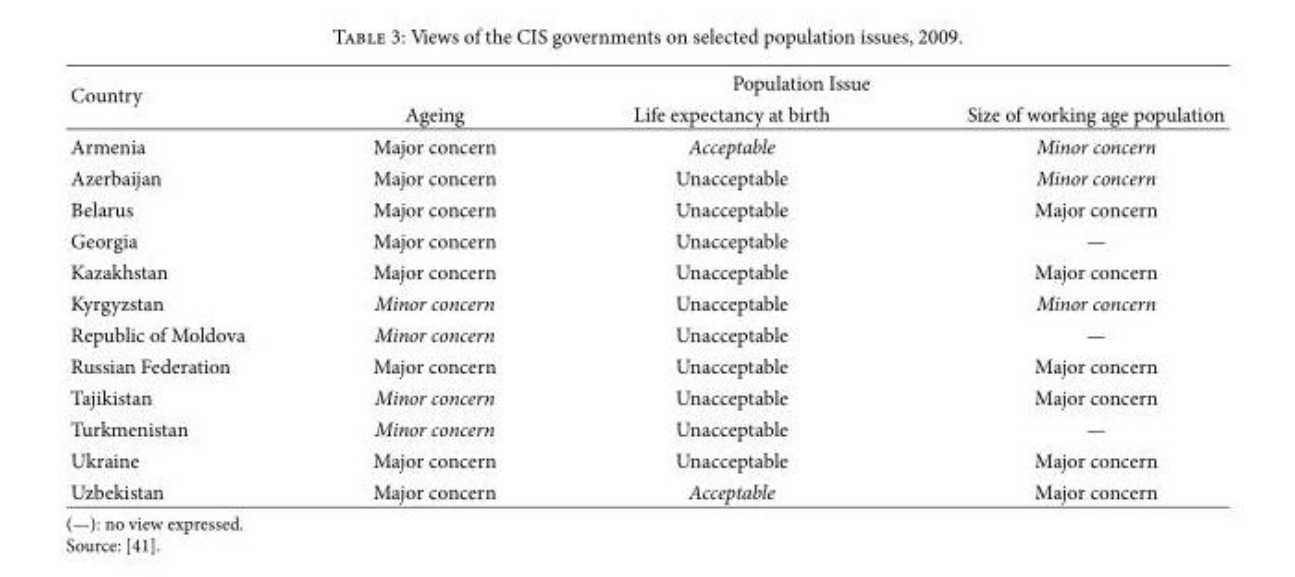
<table><thead><tr><td rowspan="2">Country</td><td colspan="3">Population Issue</td></tr><tr><td>Ageing</td><td>Life expectancy at birth</td><td>Size of working age population</td></tr></thead><tbody><tr><td>Armenia</td><td>Major concern</td><td>Acceptable</td><td>Minor concern</td></tr><tr><td>Azerbaijan</td><td>Major concern</td><td>Unacceptable</td><td>Minor concern</td></tr><tr><td>Belarus</td><td>Major concern</td><td>Unacceptable</td><td>Major concern</td></tr><tr><td>Georgia</td><td>Major concern</td><td>Unacceptable</td><td>—</td></tr><tr><td>Kazakhstan</td><td>Major concern</td><td>Unacceptable</td><td>Major concern</td></tr><tr><td>Kyrgyzstan</td><td>Minor concern</td><td>Unacceptable</td><td>Minor concern</td></tr><tr><td>Republic of Moldova</td><td>Minor concern</td><td>Unacceptable</td><td>—</td></tr><tr><td>Russian Federation</td><td>Major concern</td><td>Unacceptable</td><td>Major concern</td></tr><tr><td>Tajikistan</td><td>Minor concern</td><td>Unacceptable</td><td>Major concern</td></tr><tr><td>Turkmenistan</td><td>Minor concern</td><td>Unacceptable</td><td>—</td></tr><tr><td>Ukraine</td><td>Major concern</td><td>Unacceptable</td><td>Major concern</td></tr><tr><td>Uzbekistan</td><td>Major concern</td><td>Acceptable</td><td>Major concern</td></tr></tbody></table>